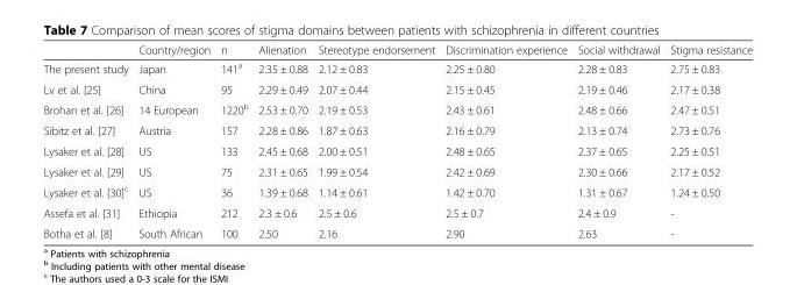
<table><thead><tr><td></td><td>Country/region</td><td>n</td><td>Alienation</td><td>Stereotype endorsement</td><td>Discrimination experience</td><td>Social withdrawal</td><td>Stigma resistance</td></tr></thead><tbody><tr><td>The present study</td><td>Japan</td><td>141<sup>a</sup></td><td>2.35 ± 0.88</td><td>2.12 ± 0.83</td><td>2.25 ± 0.80</td><td>2.28 ± 0.83</td><td>2.75 ± 0.83</td></tr><tr><td>Lv et al. [25]</td><td>China</td><td>95</td><td>2.29 ± 0.49</td><td>2.07 ± 0.44</td><td>2.15 ± 0.45</td><td>2.19 ± 0.46</td><td>2.17 ± 0.38</td></tr><tr><td>Brohan et al. [26]</td><td>14 European</td><td>1220<sup>b</sup></td><td>2.53 ± 0.70</td><td>2.19 ± 0.53</td><td>2.43 ± 0.61</td><td>2.48 ± 0.66</td><td>2.47 ± 0.51</td></tr><tr><td>Sibitz et al. [27]</td><td>Austria</td><td>157</td><td>2.28 ± 0.86</td><td>1.87 ± 0.63</td><td>2.16 ± 0.79</td><td>2.13 ± 0.74</td><td>2.73 ± 0.76</td></tr><tr><td>Lysaker et al. [28]</td><td>US</td><td>133</td><td>2.45 ± 0.68</td><td>2.00 ± 0.51</td><td>2.48 ± 0.65</td><td>2.37 ± 0.65</td><td>2.25 ± 0.51</td></tr><tr><td>Lysaker et al. [29]</td><td>US</td><td>75</td><td>2.31 ± 0.65</td><td>1.99 ± 0.54</td><td>2.42 ± 0.69</td><td>2.30 ± 0.66</td><td>2.17 ± 0.52</td></tr><tr><td>Lysaker et al. [30]<sup>c</sup></td><td>US</td><td>36</td><td>1.39 ± 0.68</td><td>1.14 ± 0.61</td><td>1.42 ± 0.70</td><td>1.31 ± 0.67</td><td>1.24 ± 0.50</td></tr><tr><td>Assefa et al. [31]</td><td>Ethiopia</td><td>212</td><td>2.3 ± 0.6</td><td>2.5 ± 0.6</td><td>2.5 ± 0.7</td><td>2.4 ± 0.9</td><td>-</td></tr><tr><td>Botha et al. [8]</td><td>South African</td><td>100</td><td>2.50</td><td>2.16</td><td>2.90</td><td>2.63</td><td>-</td></tr></tbody></table>